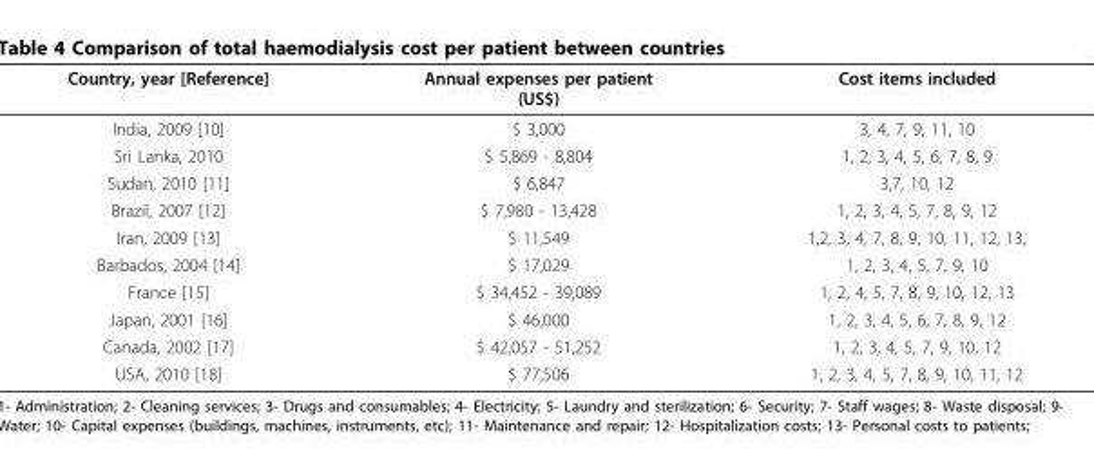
<table><thead><tr><td>Country, year [Reference]</td><td>Annual expenses per patient (US$)</td><td>Cost items included</td></tr></thead><tbody><tr><td>India, 2009 [10]</td><td>$ 3,000</td><td>3, 4, 7, 9, 11, 10</td></tr><tr><td>Sri Lanka, 2010</td><td>$ 5,869 - 8,804</td><td>1, 2, 3, 4, 5, 6, 7, 8, 9</td></tr><tr><td>Sudan, 2010 [11]</td><td>$ 6,847</td><td>3,7, 10, 12</td></tr><tr><td>Brazil, 2007 [12]</td><td>$ 7,980 - 13,428</td><td>1, 2, 3, 4, 5, 7, 8, 9, 12</td></tr><tr><td>Iran, 2009 [13]</td><td>$ 11,549</td><td>1,2, 3, 4, 7, 8, 9, 10, 11, 12, 13,</td></tr><tr><td>Barbados, 2004 [14]</td><td>$ 17,029</td><td>1, 2, 3, 4, 5, 7, 9, 10</td></tr><tr><td>France [15]</td><td>$ 34,452 - 39,089</td><td>1, 2, 4, 5, 7, 8, 9, 10, 12, 13</td></tr><tr><td>Japan, 2001 [16]</td><td>$ 46,000</td><td>1, 2, 3, 4, 5, 6, 7, 8, 9, 12</td></tr><tr><td>Canada, 2002 [17]</td><td>$ 42,057 - 51,252</td><td>1, 2, 3, 4, 5, 7, 9, 10, 12</td></tr><tr><td>USA, 2010 [18]</td><td>$ 77,506</td><td>1, 2, 3, 4, 5, 7, 8, 9, 10, 11, 12</td></tr></tbody></table>